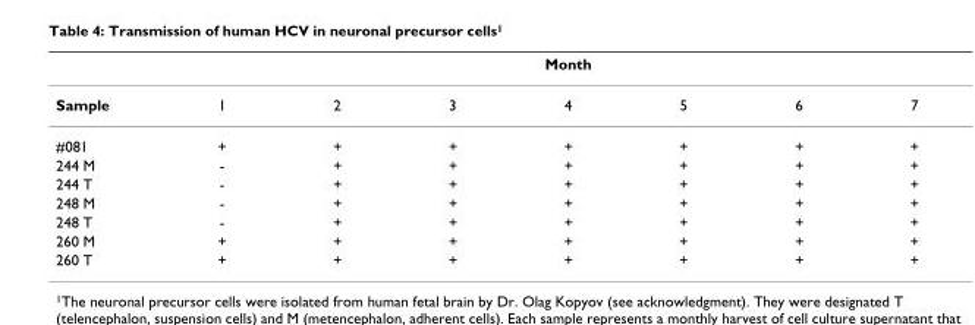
<table><thead><tr><td rowspan="2">Sample</td><td colspan="7">Month</td></tr><tr><td>1</td><td>2</td><td>3</td><td>4</td><td>5</td><td>6</td><td>7</td></tr></thead><tbody><tr><td>#081</td><td>+</td><td>+</td><td>+</td><td>+</td><td>+</td><td>+</td><td>+</td></tr><tr><td>244 M</td><td>-</td><td>+</td><td>+</td><td>+</td><td>+</td><td>+</td><td>+</td></tr><tr><td>244 T</td><td>-</td><td>+</td><td>+</td><td>+</td><td>+</td><td>+</td><td>+</td></tr><tr><td>248 M</td><td>-</td><td>+</td><td>+</td><td>+</td><td>+</td><td>+</td><td>+</td></tr><tr><td>248 T</td><td>-</td><td>+</td><td>+</td><td>+</td><td>+</td><td>+</td><td>+</td></tr><tr><td>260 M</td><td>+</td><td>+</td><td>+</td><td>+</td><td>+</td><td>+</td><td>+</td></tr><tr><td>260 T</td><td>+</td><td>+</td><td>+</td><td>+</td><td>+</td><td>+</td><td>+</td></tr></tbody></table>